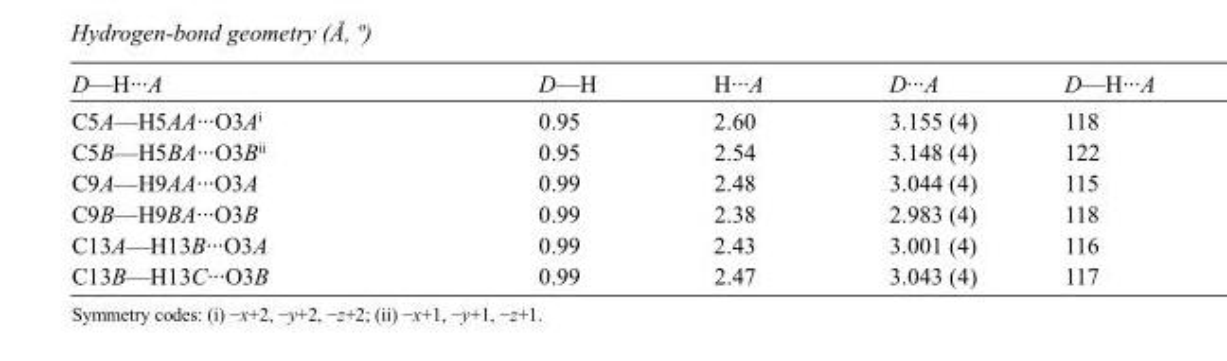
<table><tbody><tr><td>D—H···A</td><td>D—H</td><td>H···A</td><td>D···A</td><td>D—H···A</td></tr><tr><td>C5A—H5AA···O3A<sup>i</sup></td><td>0.95</td><td>2.60</td><td>3.155 (4)</td><td>118</td></tr><tr><td>C5B—H5BA···O3B<sup>ii</sup></td><td>0.95</td><td>2.54</td><td>3.148 (4)</td><td>122</td></tr><tr><td>C9A—H9AA···O3A</td><td>0.99</td><td>2.48</td><td>3.044 (4)</td><td>115</td></tr><tr><td>C9B—H9BA···O3B</td><td>0.99</td><td>2.38</td><td>2.983 (4)</td><td>118</td></tr><tr><td>C13A—H13B···O3A</td><td>0.99</td><td>2.43</td><td>3.001 (4)</td><td>116</td></tr><tr><td>C13B—H13C···O3B</td><td>0.99</td><td>2.47</td><td>3.043 (4)</td><td>117</td></tr></tbody></table>